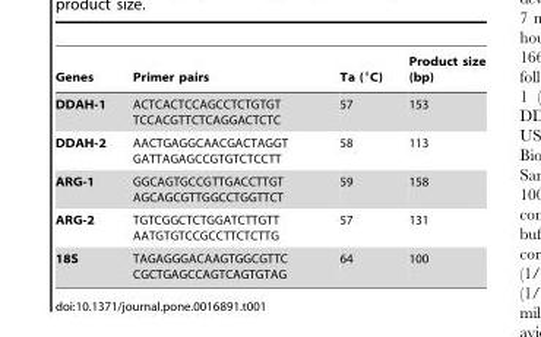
<table><thead><tr><td>Genes</td><td>Primer pairs</td><td>Ta (°C)</td><td>Product size (bp)</td></tr></thead><tbody><tr><td>DDAH-1</td><td>ACTCACTCCAGCCTCTGTGT TCCACGTTCTCAGGACTCTC</td><td>57</td><td>153</td></tr><tr><td>DDAH-2</td><td>AACTGAGGCAACGACTAGGT GATTAGAGCCGTGTCTCCTT</td><td>58</td><td>113</td></tr><tr><td>ARG-1</td><td>GGCAGTGCCGTTGACCTTGT AGCAGCGTTGGCCTGGTTCT</td><td>59</td><td>158</td></tr><tr><td>ARG-2</td><td>TGTCGGCTCTGGATCTTGTT AATGTGTCCGCCTTCTCTTG</td><td>57</td><td>131</td></tr><tr><td>18S</td><td>TAGAGGGACAAGTGGCGTTC CGCTGAGCCAGTCAGTGTAG</td><td>64</td><td>100</td></tr></tbody></table>